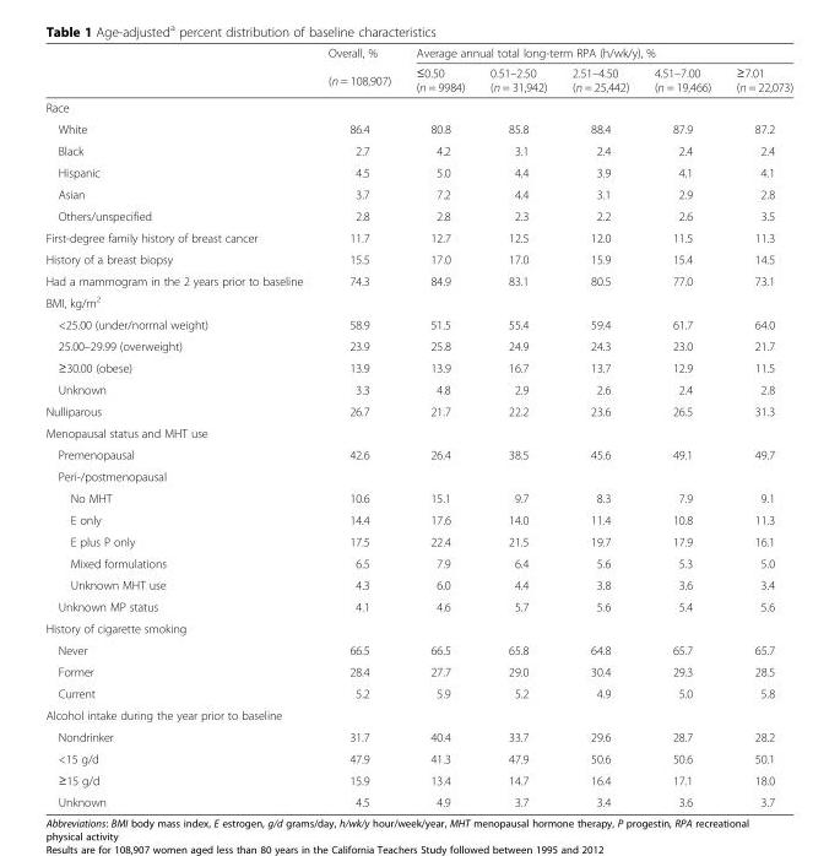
<table><thead><tr><td rowspan="2"></td><td rowspan="2">Overall, % (n = 108,907)</td><td colspan="5">Average annual total long-term RPA (h/wk/y), %</td></tr><tr><td>≤0.50 (n = 9984)</td><td>0.51–2.50 (n = 31,942)</td><td>2.51–4.50 (n = 25,442)</td><td>4.51–7.00 (n = 19,466)</td><td>≥7.01 (n = 22,073)</td></tr></thead><tbody><tr><td colspan="7">Race</td></tr><tr><td>White</td><td>86.4</td><td>80.8</td><td>85.8</td><td>88.4</td><td>87.9</td><td>87.2</td></tr><tr><td>Black</td><td>2.7</td><td>4.2</td><td>3.1</td><td>2.4</td><td>2.4</td><td>2.4</td></tr><tr><td>Hispanic</td><td>4.5</td><td>5.0</td><td>4.4</td><td>3.9</td><td>4.1</td><td>4.1</td></tr><tr><td>Asian</td><td>3.7</td><td>7.2</td><td>4.4</td><td>3.1</td><td>2.9</td><td>2.8</td></tr><tr><td>Others/unspecified</td><td>2.8</td><td>2.8</td><td>2.3</td><td>2.2</td><td>2.6</td><td>3.5</td></tr><tr><td>First-degree family history of breast cancer</td><td>11.7</td><td>12.7</td><td>12.5</td><td>12.0</td><td>11.5</td><td>11.3</td></tr><tr><td>History of a breast biopsy</td><td>15.5</td><td>17.0</td><td>17.0</td><td>15.9</td><td>15.4</td><td>14.5</td></tr><tr><td>Had a mammogram in the 2 years prior to baseline</td><td>74.3</td><td>84.9</td><td>83.1</td><td>80.5</td><td>77.0</td><td>73.1</td></tr><tr><td colspan="7">BMI, kg/m<sup>2</sup></td></tr><tr><td>&lt;25.00 (under/normal weight)</td><td>58.9</td><td>51.5</td><td>55.4</td><td>59.4</td><td>61.7</td><td>64.0</td></tr><tr><td>25.00–29.99 (overweight)</td><td>23.9</td><td>25.8</td><td>24.9</td><td>24.3</td><td>23.0</td><td>21.7</td></tr><tr><td>≥30.00 (obese)</td><td>13.9</td><td>13.9</td><td>16.7</td><td>13.7</td><td>12.9</td><td>11.5</td></tr><tr><td>Unknown</td><td>3.3</td><td>4.8</td><td>2.9</td><td>2.6</td><td>2.4</td><td>2.8</td></tr><tr><td>Nulliparous</td><td>26.7</td><td>21.7</td><td>22.2</td><td>23.6</td><td>26.5</td><td>31.3</td></tr><tr><td colspan="7">Menopausal status and MHT use</td></tr><tr><td>Premenopausal</td><td>42.6</td><td>26.4</td><td>38.5</td><td>45.6</td><td>49.1</td><td>49.7</td></tr><tr><td colspan="7">Peri-/postmenopausal</td></tr><tr><td>No MHT</td><td>10.6</td><td>15.1</td><td>9.7</td><td>8.3</td><td>7.9</td><td>9.1</td></tr><tr><td>E only</td><td>14.4</td><td>17.6</td><td>14.0</td><td>11.4</td><td>10.8</td><td>11.3</td></tr><tr><td>E plus P only</td><td>17.5</td><td>22.4</td><td>21.5</td><td>19.7</td><td>17.9</td><td>16.1</td></tr><tr><td>Mixed formulations</td><td>6.5</td><td>7.9</td><td>6.4</td><td>5.6</td><td>5.3</td><td>5.0</td></tr><tr><td>Unknown MHT use</td><td>4.3</td><td>6.0</td><td>4.4</td><td>3.8</td><td>3.6</td><td>3.4</td></tr><tr><td>Unknown MP status</td><td>4.1</td><td>4.6</td><td>5.7</td><td>5.6</td><td>5.4</td><td>5.6</td></tr><tr><td colspan="7">History of cigarette smoking</td></tr><tr><td>Never</td><td>66.5</td><td>66.5</td><td>65.8</td><td>64.8</td><td>65.7</td><td>65.7</td></tr><tr><td>Former</td><td>28.4</td><td>27.7</td><td>29.0</td><td>30.4</td><td>29.3</td><td>28.5</td></tr><tr><td>Current</td><td>5.2</td><td>5.9</td><td>5.2</td><td>4.9</td><td>5.0</td><td>5.8</td></tr><tr><td colspan="7">Alcohol intake during the year prior to baseline</td></tr><tr><td>Nondrinker</td><td>31.7</td><td>40.4</td><td>33.7</td><td>29.6</td><td>28.7</td><td>28.2</td></tr><tr><td>&lt;15 g/d</td><td>47.9</td><td>41.3</td><td>47.9</td><td>50.6</td><td>50.6</td><td>50.1</td></tr><tr><td>≥15 g/d</td><td>15.9</td><td>13.4</td><td>14.7</td><td>16.4</td><td>17.1</td><td>18.0</td></tr><tr><td>Unknown</td><td>4.5</td><td>4.9</td><td>3.7</td><td>3.4</td><td>3.6</td><td>3.7</td></tr></tbody></table>